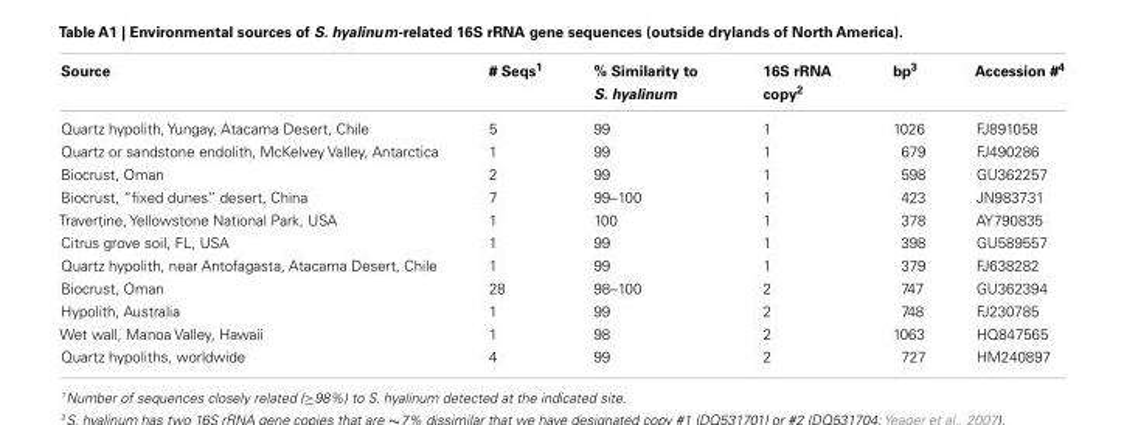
<table><thead><tr><td>Source</td><td># Seqs<sup>1</sup></td><td>% Similarity to S. hyalinum</td><td>16S rRNA copy<sup>2</sup></td><td>bp<sup>3</sup></td><td>Accession #<sup>4</sup></td></tr></thead><tbody><tr><td>Quartz hypolith, Yungay, Atacama Desert, Chile</td><td>5</td><td>99</td><td>1</td><td>1026</td><td>FJ891058</td></tr><tr><td>Quartz or sandstone endolith, McKelvey Valley, Antarctica</td><td>1</td><td>99</td><td>1</td><td>679</td><td>FJ490286</td></tr><tr><td>Biocrust, Oman</td><td>2</td><td>99</td><td>1</td><td>598</td><td>GU362257</td></tr><tr><td>Biocrust, “fixed dunes” desert, China</td><td>7</td><td>99–100</td><td>1</td><td>423</td><td>JN983731</td></tr><tr><td>Travertine, Yellowstone National Park, USA</td><td>1</td><td>100</td><td>1</td><td>378</td><td>AY790835</td></tr><tr><td>Citrus grove soil, FL, USA</td><td>1</td><td>99</td><td>1</td><td>398</td><td>GU589557</td></tr><tr><td>Quartz hypolith, near Antofagasta, Atacama Desert, Chile</td><td>1</td><td>99</td><td>1</td><td>379</td><td>FJ638282</td></tr><tr><td>Biocrust, Oman</td><td>28</td><td>98–100</td><td>2</td><td>747</td><td>GU362394</td></tr><tr><td>Hypolith, Australia</td><td>1</td><td>99</td><td>2</td><td>748</td><td>FJ230785</td></tr><tr><td>Wet wall, Manoa Valley, Hawaii</td><td>1</td><td>98</td><td>2</td><td>1063</td><td>HQ847565</td></tr><tr><td>Quartz hypoliths, worldwide</td><td>4</td><td>99</td><td>2</td><td>727</td><td>HM240897</td></tr></tbody></table>